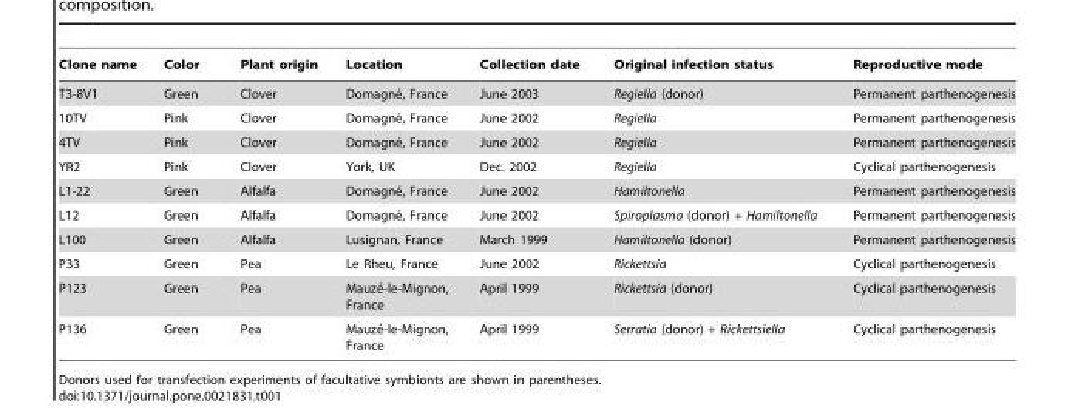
<table><thead><tr><td>Clone name</td><td>Color</td><td>Plant origin</td><td>Location</td><td>Collection date</td><td>Original infection status</td><td>Reproductive mode</td></tr></thead><tbody><tr><td>T3-8V1</td><td>Green</td><td>Clover</td><td>Domagne´, France</td><td>June 2003</td><td>Regiella (donor)</td><td>Permanent parthenogenesis</td></tr><tr><td>10TV</td><td>Pink</td><td>Clover</td><td>Domagne´, France</td><td>June 2002</td><td>Regiella</td><td>Permanent parthenogenesis</td></tr><tr><td>4TV</td><td>Pink</td><td>Clover</td><td>Domagne´, France</td><td>June 2002</td><td>Regiella</td><td>Permanent parthenogenesis</td></tr><tr><td>YR2</td><td>Pink</td><td>Clover</td><td>York, UK</td><td>Dec. 2002</td><td>Regiella</td><td>Cyclical parthenogenesis</td></tr><tr><td>L1-22</td><td>Green</td><td>Alfalfa</td><td>Domagne´, France</td><td>June 2002</td><td>Hamiltonella</td><td>Permanent parthenogenesis</td></tr><tr><td>L12</td><td>Green</td><td>Alfalfa</td><td>Domagne´, France</td><td>June 2002</td><td>Spiroplasma (donor) + Hamiltonella</td><td>Permanent parthenogenesis</td></tr><tr><td>L100</td><td>Green</td><td>Alfalfa</td><td>Lusignan, France</td><td>March 1999</td><td>Hamiltonella (donor)</td><td>Permanent parthenogenesis</td></tr><tr><td>P33</td><td>Green</td><td>Pea</td><td>Le Rheu, France</td><td>June 2002</td><td>Rickettsia</td><td>Cyclical parthenogenesis</td></tr><tr><td>P123</td><td>Green</td><td>Pea</td><td>Mauze´-le-Mignon, France</td><td>April 1999</td><td>Rickettsia (donor)</td><td>Cyclical parthenogenesis</td></tr><tr><td>P136</td><td>Green</td><td>Pea</td><td>Mauze´-le-Mignon, France</td><td>April 1999</td><td>Serratia (donor) + Rickettsiella</td><td>Cyclical parthenogenesis</td></tr></tbody></table>